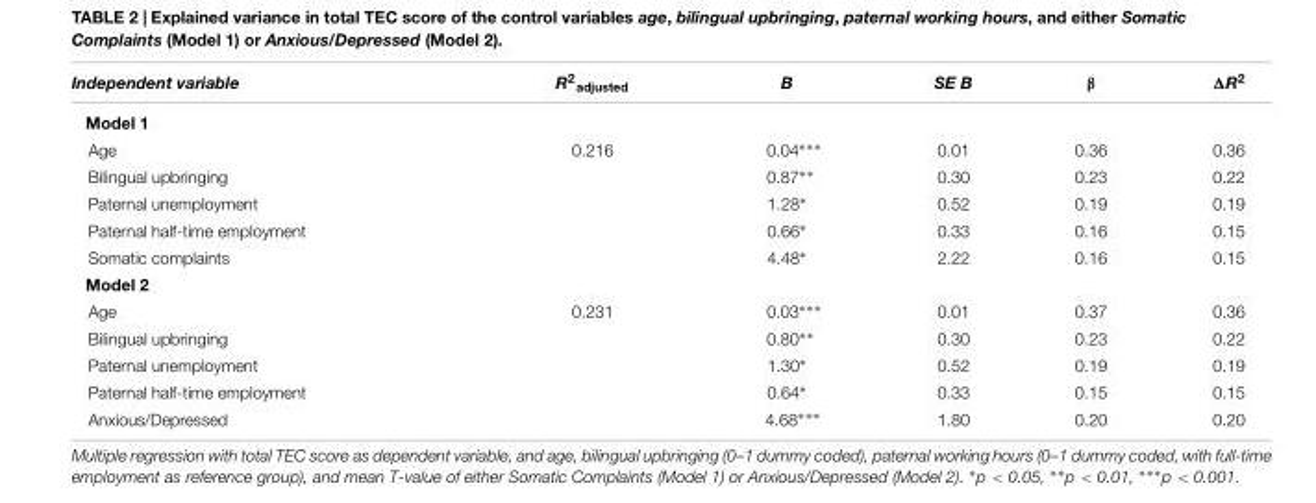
<table><thead><tr><td>Independent variable</td><td>R<sup>2</sup><sub>adjusted</sub></td><td>B</td><td>SE B</td><td>β</td><td>ΔR<sup>2</sup></td></tr></thead><tbody><tr><td colspan="6">Model 1</td></tr><tr><td>Age</td><td>0.216</td><td>0.04∗∗∗</td><td>0.01</td><td>0.36</td><td>0.36</td></tr><tr><td>Bilingual upbringing</td><td></td><td>0.87∗∗</td><td>0.30</td><td>0.23</td><td>0.22</td></tr><tr><td>Paternal unemployment</td><td></td><td>1.28∗</td><td>0.52</td><td>0.19</td><td>0.19</td></tr><tr><td>Paternal half-time employment</td><td></td><td>0.66∗</td><td>0.33</td><td>0.16</td><td>0.15</td></tr><tr><td>Somatic complaints</td><td></td><td>4.48∗</td><td>2.22</td><td>0.16</td><td>0.15</td></tr><tr><td colspan="6">Model 2</td></tr><tr><td>Age</td><td>0.231</td><td>0.03∗∗∗</td><td>0.01</td><td>0.37</td><td>0.36</td></tr><tr><td>Bilingual upbringing</td><td></td><td>0.80∗∗</td><td>0.30</td><td>0.23</td><td>0.22</td></tr><tr><td>Paternal unemployment</td><td></td><td>1.30∗</td><td>0.52</td><td>0.19</td><td>0.19</td></tr><tr><td>Paternal half-time employment</td><td></td><td>0.64∗</td><td>0.33</td><td>0.15</td><td>0.15</td></tr><tr><td>Anxious/Depressed</td><td></td><td>4.68∗∗∗</td><td>1.80</td><td>0.20</td><td>0.20</td></tr></tbody></table>